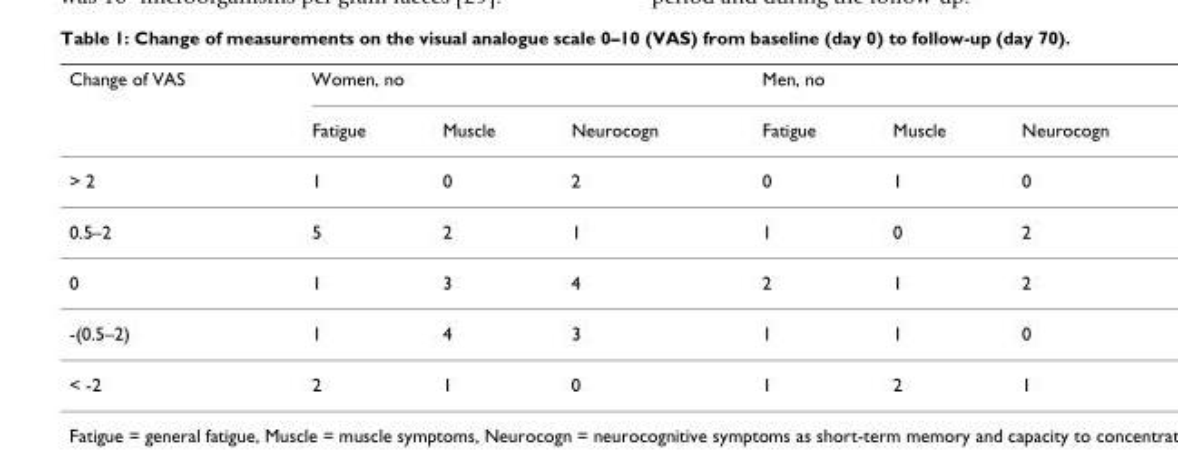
<table><thead><tr><td rowspan="2">Change of VAS</td><td colspan="3">Women, no</td><td colspan="3">Men, no</td></tr><tr><td>Fatigue</td><td>Muscle</td><td>Neurocogn</td><td>Fatigue</td><td>Muscle</td><td>Neurocogn</td></tr></thead><tbody><tr><td>&gt; 2</td><td>1</td><td>0</td><td>2</td><td>0</td><td>1</td><td>0</td></tr><tr><td>0.5–2</td><td>5</td><td>2</td><td>1</td><td>1</td><td>0</td><td>2</td></tr><tr><td>0</td><td>1</td><td>3</td><td>4</td><td>2</td><td>1</td><td>2</td></tr><tr><td>-(0.5–2)</td><td>1</td><td>4</td><td>3</td><td>1</td><td>1</td><td>0</td></tr><tr><td>&lt; -2</td><td>2</td><td>1</td><td>0</td><td>1</td><td>2</td><td>1</td></tr></tbody></table>